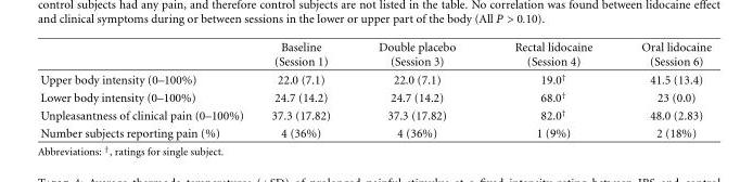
<table><thead><tr><td></td><td>Baseline (Session 1)</td><td>Double placebo (Session 3)</td><td>Rectal lidocaine (Session 4)</td><td>Oral lidocaine (Session 6)</td></tr></thead><tbody><tr><td>Upper body intensity (0–100%)</td><td>22.0 (7.1)</td><td>22.0 (7.1)</td><td>19.0<sup>†</sup></td><td>41.5 (13.4)</td></tr><tr><td>Lower body intensity (0–100%)</td><td>24.7 (14.2)</td><td>24.7 (14.2)</td><td>68.0<sup>†</sup></td><td>23 (0.0)</td></tr><tr><td>Unpleasantness of clinical pain (0–100%)</td><td>37.3 (17.82)</td><td>37.3 (17.82)</td><td>82.0<sup>†</sup></td><td>48.0 (2.83)</td></tr><tr><td>Number subjects reporting pain (%)</td><td>4 (36%)</td><td>4 (36%)</td><td>1 (9%)</td><td>2 (18%)</td></tr></tbody></table>